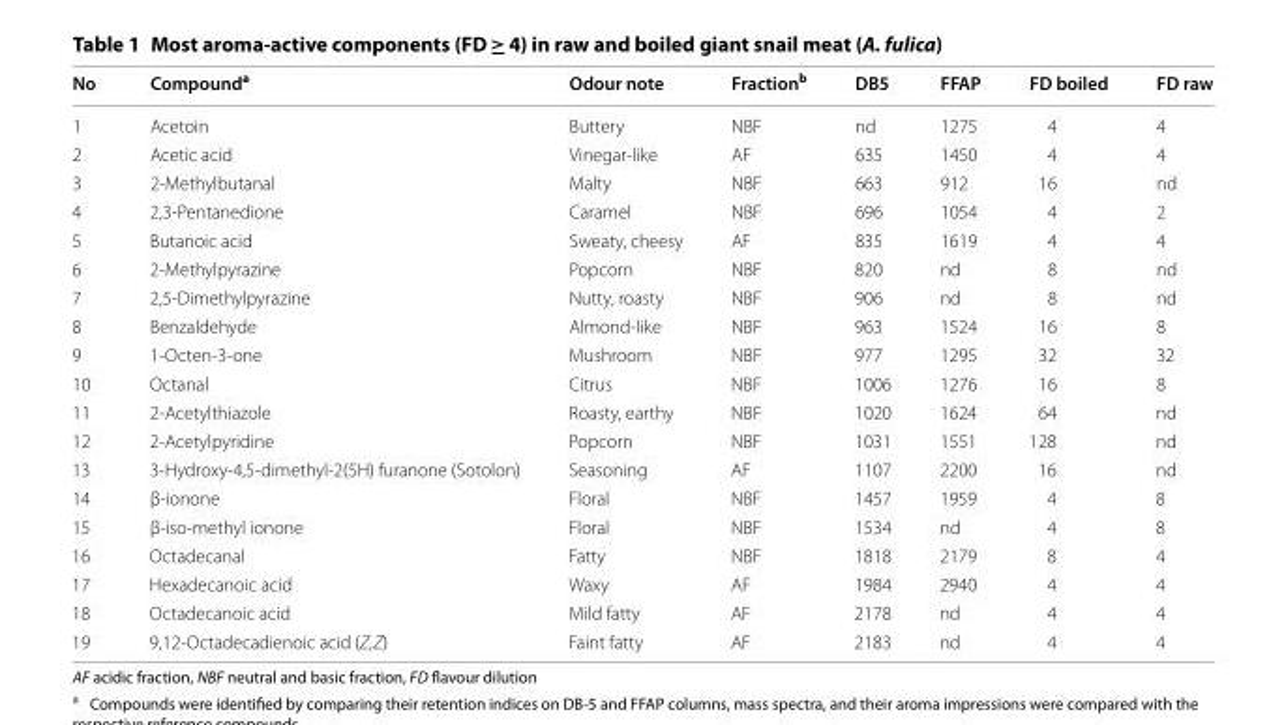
<table><thead><tr><td>No</td><td>Compound<sup>a</sup></td><td>Odour note</td><td>Fraction<sup>b</sup></td><td>DB5</td><td>FFAP</td><td>FD boiled</td><td>FD raw</td></tr></thead><tbody><tr><td>1</td><td>Acetoin</td><td>Buttery</td><td>NBF</td><td>nd</td><td>1275</td><td>4</td><td>4</td></tr><tr><td>2</td><td>Acetic acid</td><td>Vinegar-like</td><td>AF</td><td>635</td><td>1450</td><td>4</td><td>4</td></tr><tr><td>3</td><td>2-Methylbutanal</td><td>Malty</td><td>NBF</td><td>663</td><td>912</td><td>16</td><td>nd</td></tr><tr><td>4</td><td>2,3-Pentanedione</td><td>Caramel</td><td>NBF</td><td>696</td><td>1054</td><td>4</td><td>2</td></tr><tr><td>5</td><td>Butanoic acid</td><td>Sweaty, cheesy</td><td>AF</td><td>835</td><td>1619</td><td>4</td><td>4</td></tr><tr><td>6</td><td>2-Methylpyrazine</td><td>Popcorn</td><td>NBF</td><td>820</td><td>nd</td><td>8</td><td>nd</td></tr><tr><td>7</td><td>2,5-Dimethylpyrazine</td><td>Nutty, roasty</td><td>NBF</td><td>906</td><td>nd</td><td>8</td><td>nd</td></tr><tr><td>8</td><td>Benzaldehyde</td><td>Almond-like</td><td>NBF</td><td>963</td><td>1524</td><td>16</td><td>8</td></tr><tr><td>9</td><td>1-Octen-3-one</td><td>Mushroom</td><td>NBF</td><td>977</td><td>1295</td><td>32</td><td>32</td></tr><tr><td>10</td><td>Octanal</td><td>Citrus</td><td>NBF</td><td>1006</td><td>1276</td><td>16</td><td>8</td></tr><tr><td>11</td><td>2-Acetylthiazole</td><td>Roasty, earthy</td><td>NBF</td><td>1020</td><td>1624</td><td>64</td><td>nd</td></tr><tr><td>12</td><td>2-Acetylpyridine</td><td>Popcorn</td><td>NBF</td><td>1031</td><td>1551</td><td>128</td><td>nd</td></tr><tr><td>13</td><td>3-Hydroxy-4,5-dimethyl-2(5H) furanone (Sotolon)</td><td>Seasoning</td><td>AF</td><td>1107</td><td>2200</td><td>16</td><td>nd</td></tr><tr><td>14</td><td>β-ionone</td><td>Floral</td><td>NBF</td><td>1457</td><td>1959</td><td>4</td><td>8</td></tr><tr><td>15</td><td>β-iso-methyl ionone</td><td>Floral</td><td>NBF</td><td>1534</td><td>nd</td><td>4</td><td>8</td></tr><tr><td>16</td><td>Octadecanal</td><td>Fatty</td><td>NBF</td><td>1818</td><td>2179</td><td>8</td><td>4</td></tr><tr><td>17</td><td>Hexadecanoic acid</td><td>Waxy</td><td>AF</td><td>1984</td><td>2940</td><td>4</td><td>4</td></tr><tr><td>18</td><td>Octadecanoic acid</td><td>Mild fatty</td><td>AF</td><td>2178</td><td>nd</td><td>4</td><td>4</td></tr><tr><td>19</td><td>9,12-Octadecadienoic acid (Z,Z)</td><td>Faint fatty</td><td>AF</td><td>2183</td><td>nd</td><td>4</td><td>4</td></tr></tbody></table>